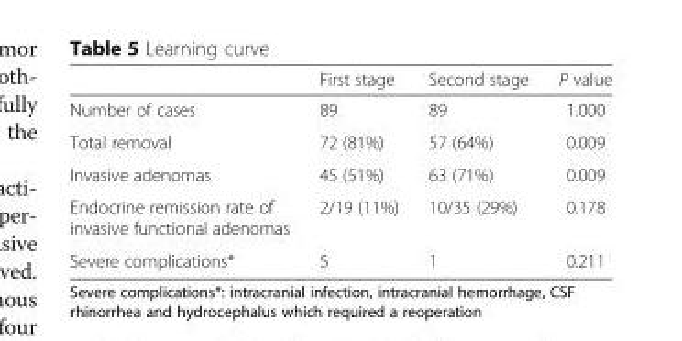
<table><thead><tr><td></td><td>First stage</td><td>Second stage</td><td>P value</td></tr></thead><tbody><tr><td>Number of cases</td><td>89</td><td>89</td><td>1.000</td></tr><tr><td>Total removal</td><td>72 (81%)</td><td>57 (64%)</td><td>0.009</td></tr><tr><td>Invasive adenomas</td><td>45 (51%)</td><td>63 (71%)</td><td>0.009</td></tr><tr><td>Endocrine remission rate of invasive functional adenomas</td><td>2/19 (11%)</td><td>10/35 (29%)</td><td>0.178</td></tr><tr><td>Severe complications*</td><td>5</td><td>1</td><td>0.211</td></tr></tbody></table>